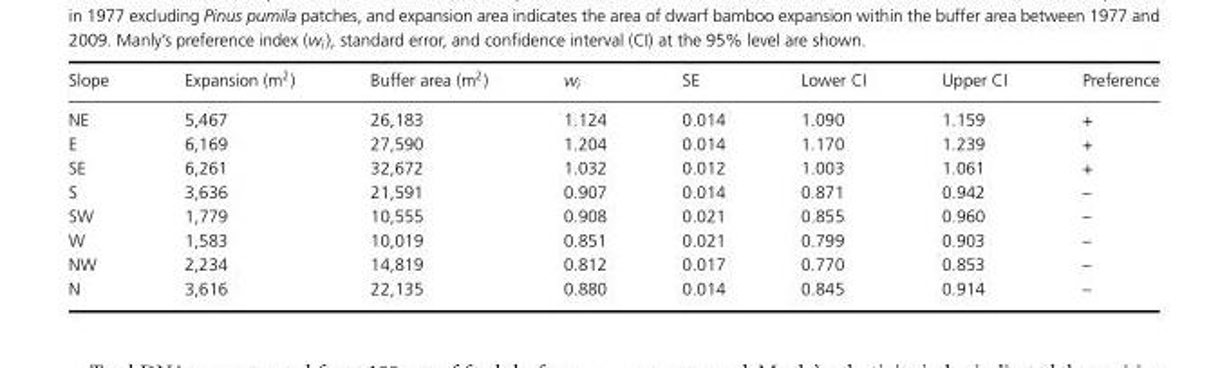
<table><thead><tr><td>Slope</td><td>Expansion (m<sup>2</sup>)</td><td>Buffer area (m<sup>2</sup>)</td><td>w<sub>i</sub></td><td>SE</td><td>Lower CI</td><td>Upper CI</td><td>Preference</td></tr></thead><tbody><tr><td>NE</td><td>5,467</td><td>26,183</td><td>1.124</td><td>0.014</td><td>1.090</td><td>1.159</td><td>+</td></tr><tr><td>E</td><td>6,169</td><td>27,590</td><td>1.204</td><td>0.014</td><td>1.170</td><td>1.239</td><td>+</td></tr><tr><td>SE</td><td>6,261</td><td>32,672</td><td>1.032</td><td>0.012</td><td>1.003</td><td>1.061</td><td>+</td></tr><tr><td>S</td><td>3,636</td><td>21,591</td><td>0.907</td><td>0.014</td><td>0.871</td><td>0.942</td><td>–</td></tr><tr><td>SW</td><td>1,779</td><td>10,555</td><td>0.908</td><td>0.021</td><td>0.855</td><td>0.960</td><td>–</td></tr><tr><td>W</td><td>1,583</td><td>10,019</td><td>0.851</td><td>0.021</td><td>0.799</td><td>0.903</td><td>–</td></tr><tr><td>NW</td><td>2,234</td><td>14,819</td><td>0.812</td><td>0.017</td><td>0.770</td><td>0.853</td><td>–</td></tr><tr><td>N</td><td>3,616</td><td>22,135</td><td>0.880</td><td>0.014</td><td>0.845</td><td>0.914</td><td>–</td></tr></tbody></table>